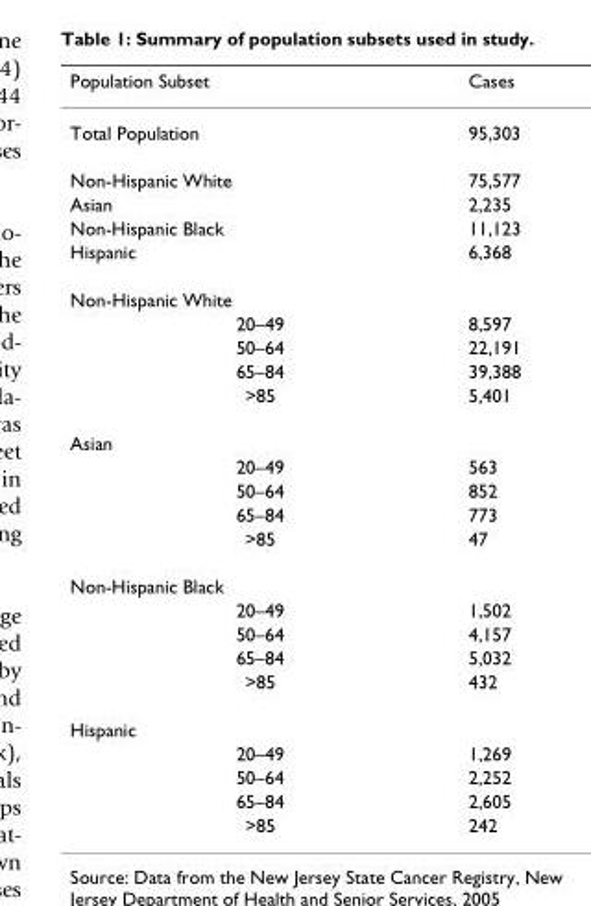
<table><thead><tr><td>Population Subset</td><td>Cases</td></tr></thead><tbody><tr><td>Total Population</td><td>95,303</td></tr><tr><td>Non-Hispanic White</td><td>75,577</td></tr><tr><td>Asian</td><td>2,235</td></tr><tr><td>Non-Hispanic Black</td><td>11,123</td></tr><tr><td>Hispanic</td><td>6,368</td></tr><tr><td colspan="2">Non-Hispanic White</td></tr><tr><td>20–49</td><td>8,597</td></tr><tr><td>50–64</td><td>22,191</td></tr><tr><td>65–84</td><td>39,388</td></tr><tr><td>&gt;85</td><td>5,401</td></tr><tr><td colspan="2">Asian</td></tr><tr><td>20–49</td><td>563</td></tr><tr><td>50–64</td><td>852</td></tr><tr><td>65–84</td><td>773</td></tr><tr><td>&gt;85</td><td>47</td></tr><tr><td colspan="2">Non-Hispanic Black</td></tr><tr><td>20–49</td><td>1,502</td></tr><tr><td>50–64</td><td>4,157</td></tr><tr><td>65–84</td><td>5,032</td></tr><tr><td>&gt;85</td><td>432</td></tr><tr><td colspan="2">Hispanic</td></tr><tr><td>20–49</td><td>1,269</td></tr><tr><td>50–64</td><td>2,252</td></tr><tr><td>65–84</td><td>2,605</td></tr><tr><td>&gt;85</td><td>242</td></tr></tbody></table>